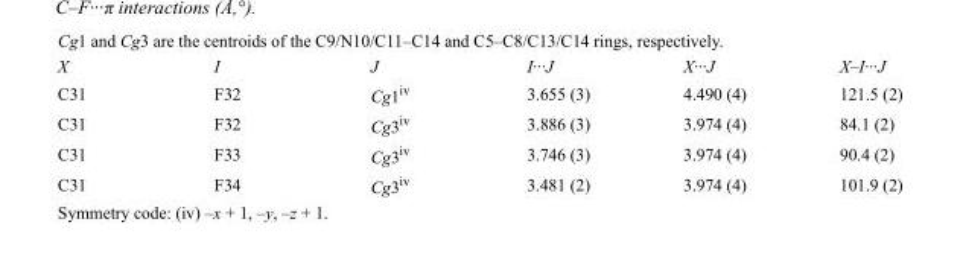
<table><tbody><tr><td>X</td><td>I</td><td>J</td><td>I···J</td><td>X···J</td><td>X–I···J</td></tr><tr><td>C31</td><td>F32</td><td>Cg1<sup>iv</sup></td><td>3.655 (3)</td><td>4.490 (4)</td><td>121.5 (2)</td></tr><tr><td>C31</td><td>F32</td><td>Cg3<sup>iv</sup></td><td>3.886 (3)</td><td>3.974 (4)</td><td>84.1 (2)</td></tr><tr><td>C31</td><td>F33</td><td>Cg3<sup>iv</sup></td><td>3.746 (3)</td><td>3.974 (4)</td><td>90.4 (2)</td></tr><tr><td>C31</td><td>F34</td><td>Cg3<sup>iv</sup></td><td>3.481 (2)</td><td>3.974 (4)</td><td>101.9 (2)</td></tr></tbody></table>